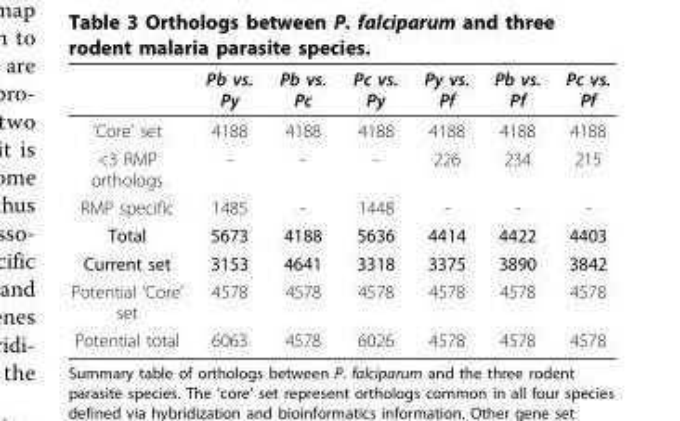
<table><thead><tr><td></td><td>Pb vs. Py</td><td>Pb vs. Pc</td><td>Pc vs. Py</td><td>Py vs. Pf</td><td>Pb vs. Pf</td><td>Pc vs. Pf</td></tr></thead><tbody><tr><td>’Core’ set</td><td>4188</td><td>4188</td><td>4188</td><td>4188</td><td>4188</td><td>4188</td></tr><tr><td>&lt;3 RMP orthologs</td><td>-</td><td>-</td><td>-</td><td>226</td><td>234</td><td>215</td></tr><tr><td>RMP specific</td><td>1485</td><td>-</td><td>1448</td><td>-</td><td>-</td><td>-</td></tr><tr><td>Total</td><td>5673</td><td>4188</td><td>5636</td><td>4414</td><td>4422</td><td>4403</td></tr><tr><td>Current set</td><td>3153</td><td>4641</td><td>3318</td><td>3375</td><td>3890</td><td>3842</td></tr><tr><td>Potential ‘Core’ set</td><td>4578</td><td>4578</td><td>4578</td><td>4578</td><td>4578</td><td>4578</td></tr><tr><td>Potential total</td><td>6063</td><td>4578</td><td>6026</td><td>4578</td><td>4578</td><td>4578</td></tr></tbody></table>